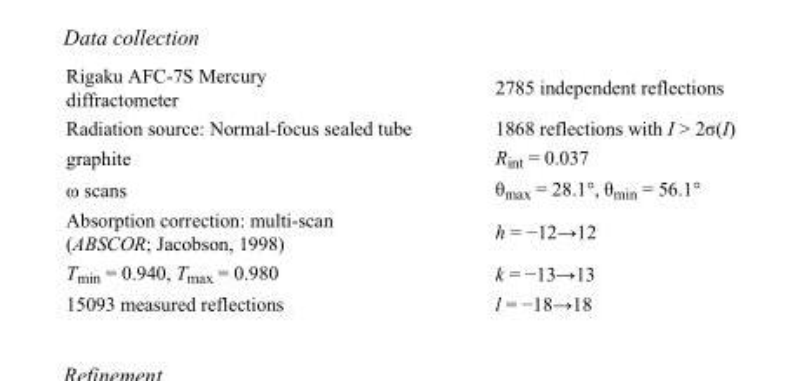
<table><tbody><tr><td>Rigaku AFC-7S Mercury diffractometer</td><td>2785 independent reflections</td></tr><tr><td>Radiation source: Normal-focus sealed tube</td><td>1868 reflections with I &gt; 2σ(I)</td></tr><tr><td>graphite</td><td>R<sub>int</sub> = 0.037</td></tr><tr><td>ω scans</td><td>θ<sub>max</sub> = 28.1°, θ<sub>min</sub> = 56.1°</td></tr><tr><td>Absorption correction: multi-scan (ABSCOR; Jacobson, 1998)</td><td>h = −12→12</td></tr><tr><td>T<sub>min</sub> = 0.940, T<sub>max</sub> = 0.980</td><td>k = −13→13</td></tr><tr><td>15093 measured reflections</td><td>l = −18→18</td></tr></tbody></table>